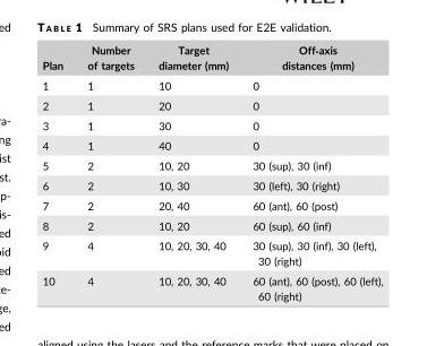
<table><thead><tr><td>Plan</td><td>Number of targets</td><td>Target diameter (mm)</td><td>Off‐axis distances (mm)</td></tr></thead><tbody><tr><td>1</td><td>1</td><td>10</td><td>0</td></tr><tr><td>2</td><td>1</td><td>20</td><td>0</td></tr><tr><td>3</td><td>1</td><td>30</td><td>0</td></tr><tr><td>4</td><td>1</td><td>40</td><td>0</td></tr><tr><td>5</td><td>2</td><td>10, 20</td><td>30 (sup), 30 (inf)</td></tr><tr><td>6</td><td>2</td><td>10, 30</td><td>30 (left), 30 (right)</td></tr><tr><td>7</td><td>2</td><td>20, 40</td><td>60 (ant), 60 (post)</td></tr><tr><td>8</td><td>2</td><td>10, 20</td><td>60 (sup), 60 (inf)</td></tr><tr><td>9</td><td>4</td><td>10, 20, 30, 40</td><td>30 (sup), 30 (inf), 30 (left), 30 (right)</td></tr><tr><td>10</td><td>4</td><td>10, 20, 30, 40</td><td>60 (ant), 60 (post), 60 (left), 60 (right)</td></tr></tbody></table>